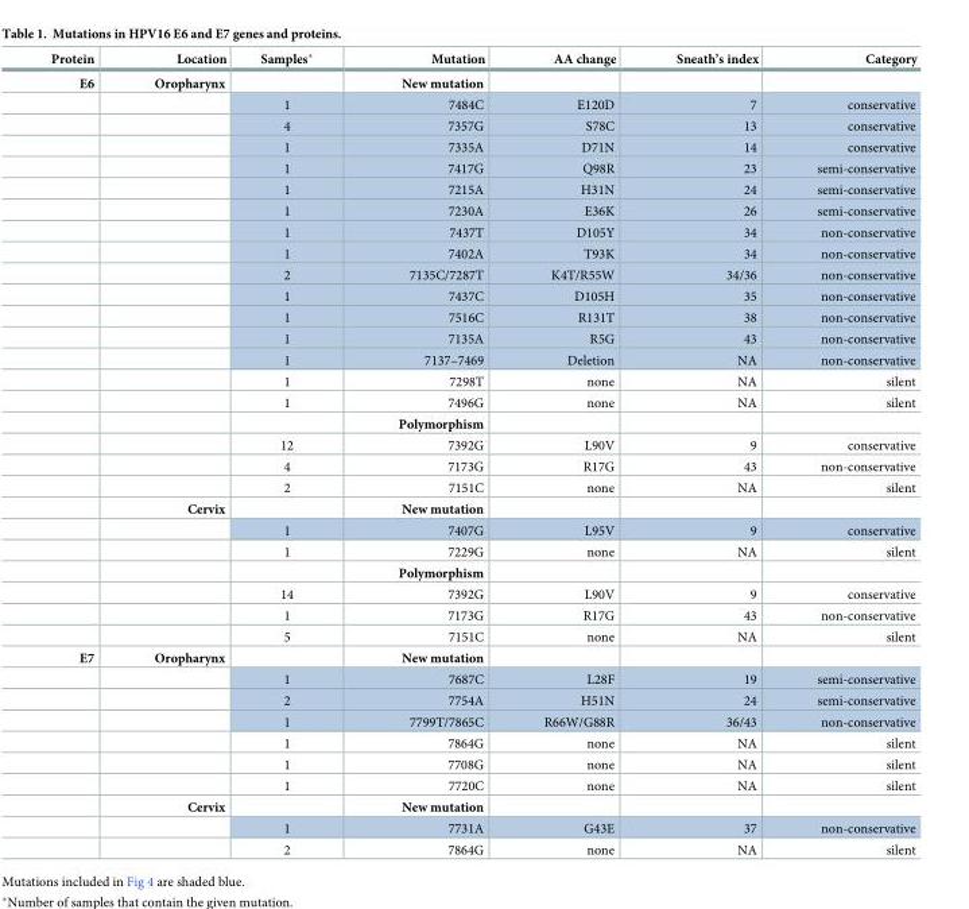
<table><thead><tr><td>Protein</td><td>Location</td><td>Samples*</td><td>Mutation</td><td>AA change</td><td>Sneath’s index</td><td>Category</td></tr></thead><tbody><tr><td rowspan="27">E6</td><td>Oropharynx</td><td></td><td>New mutation</td><td></td><td></td><td></td></tr><tr><td></td><td>1</td><td>7484C</td><td>E120D</td><td>7</td><td>conservative</td></tr><tr><td></td><td>4</td><td>7357G</td><td>S78C</td><td>13</td><td>conservative</td></tr><tr><td></td><td>1</td><td>7335A</td><td>D71N</td><td>14</td><td>conservative</td></tr><tr><td></td><td>1</td><td>7417G</td><td>Q98R</td><td>23</td><td>semi-conservative</td></tr><tr><td></td><td>1</td><td>7215A</td><td>H31N</td><td>24</td><td>semi-conservative</td></tr><tr><td></td><td>1</td><td>7230A</td><td>E36K</td><td>26</td><td>semi-conservative</td></tr><tr><td></td><td>1</td><td>7437T</td><td>D105Y</td><td>34</td><td>non-conservative</td></tr><tr><td></td><td>1</td><td>7402A</td><td>T93K</td><td>34</td><td>non-conservative</td></tr><tr><td></td><td>2</td><td>7135C/7287T</td><td>K4T/R55W</td><td>34/36</td><td>non-conservative</td></tr><tr><td></td><td>1</td><td>7437C</td><td>D105H</td><td>35</td><td>non-conservative</td></tr><tr><td></td><td>1</td><td>7516C</td><td>R131T</td><td>38</td><td>non-conservative</td></tr><tr><td></td><td>1</td><td>7135A</td><td>R5G</td><td>43</td><td>non-conservative</td></tr><tr><td></td><td>1</td><td>7137–7469</td><td>Deletion</td><td>NA</td><td>non-conservative</td></tr><tr><td></td><td>1</td><td>7298T</td><td>none</td><td>NA</td><td>silent</td></tr><tr><td></td><td>1</td><td>7496G</td><td>none</td><td>NA</td><td>silent</td></tr><tr><td></td><td></td><td>Polymorphism</td><td></td><td></td><td></td></tr><tr><td></td><td>12</td><td>7392G</td><td>L90V</td><td>9</td><td>conservative</td></tr><tr><td></td><td>4</td><td>7173G</td><td>R17G</td><td>43</td><td>non-conservative</td></tr><tr><td></td><td>2</td><td>7151C</td><td>none</td><td>NA</td><td>silent</td></tr><tr><td>Cervix</td><td></td><td>New mutation</td><td></td><td></td><td></td></tr><tr><td></td><td>1</td><td>7407G</td><td>L95V</td><td>9</td><td>conservative</td></tr><tr><td></td><td>1</td><td>7229G</td><td>none</td><td>NA</td><td>silent</td></tr><tr><td></td><td></td><td>Polymorphism</td><td></td><td></td><td></td></tr><tr><td></td><td>14</td><td>7392G</td><td>L90V</td><td>9</td><td>conservative</td></tr><tr><td></td><td>1</td><td>7173G</td><td>R17G</td><td>43</td><td>non-conservative</td></tr><tr><td></td><td>5</td><td>7151C</td><td>none</td><td>NA</td><td>silent</td></tr><tr><td rowspan="10">E7</td><td>Oropharynx</td><td></td><td>New mutation</td><td></td><td></td><td></td></tr><tr><td></td><td>1</td><td>7687C</td><td>L28F</td><td>19</td><td>semi-conservative</td></tr><tr><td></td><td>2</td><td>7754A</td><td>H51N</td><td>24</td><td>semi-conservative</td></tr><tr><td></td><td>1</td><td>7799T/7865C</td><td>R66W/G88R</td><td>36/43</td><td>non-conservative</td></tr><tr><td></td><td>1</td><td>7864G</td><td>none</td><td>NA</td><td>silent</td></tr><tr><td></td><td>1</td><td>7708G</td><td>none</td><td>NA</td><td>silent</td></tr><tr><td></td><td>1</td><td>7720C</td><td>none</td><td>NA</td><td>silent</td></tr><tr><td>Cervix</td><td></td><td>New mutation</td><td></td><td></td><td></td></tr><tr><td></td><td>1</td><td>7731A</td><td>G43E</td><td>37</td><td>non-conservative</td></tr><tr><td></td><td>2</td><td>7864G</td><td>none</td><td>NA</td><td>silent</td></tr></tbody></table>